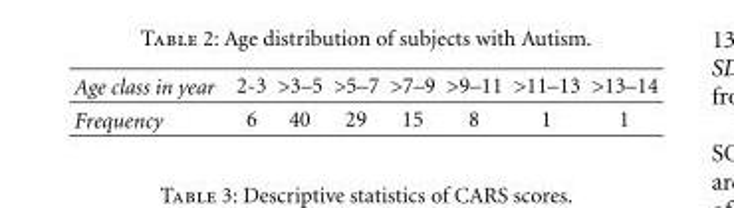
<table><thead><tr><td>Age class in year</td><td>2-3</td><td>&gt;3–5</td><td>&gt;5–7</td><td>&gt;7–9</td><td>&gt;9–11</td><td>&gt;11–13</td><td>&gt;13–14</td></tr></thead><tbody><tr><td>Frequency</td><td>6</td><td>40</td><td>29</td><td>15</td><td>8</td><td>1</td><td>1</td></tr></tbody></table>